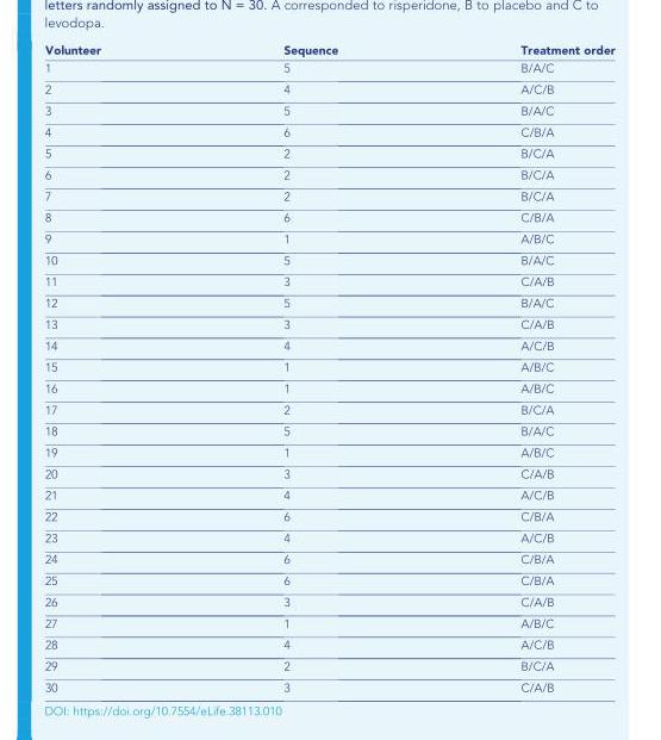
<table><thead><tr><td>Volunteer</td><td>Sequence</td><td>Treatment order</td></tr></thead><tbody><tr><td>1</td><td>5</td><td>B/A/C</td></tr><tr><td>2</td><td>4</td><td>A/C/B</td></tr><tr><td>3</td><td>5</td><td>B/A/C</td></tr><tr><td>4</td><td>6</td><td>C/B/A</td></tr><tr><td>5</td><td>2</td><td>B/C/A</td></tr><tr><td>6</td><td>2</td><td>B/C/A</td></tr><tr><td>7</td><td>2</td><td>B/C/A</td></tr><tr><td>8</td><td>6</td><td>C/B/A</td></tr><tr><td>9</td><td>1</td><td>A/B/C</td></tr><tr><td>10</td><td>5</td><td>B/A/C</td></tr><tr><td>11</td><td>3</td><td>C/A/B</td></tr><tr><td>12</td><td>5</td><td>B/A/C</td></tr><tr><td>13</td><td>3</td><td>C/A/B</td></tr><tr><td>14</td><td>4</td><td>A/C/B</td></tr><tr><td>15</td><td>1</td><td>A/B/C</td></tr><tr><td>16</td><td>1</td><td>A/B/C</td></tr><tr><td>17</td><td>2</td><td>B/C/A</td></tr><tr><td>18</td><td>5</td><td>B/A/C</td></tr><tr><td>19</td><td>1</td><td>A/B/C</td></tr><tr><td>20</td><td>3</td><td>C/A/B</td></tr><tr><td>21</td><td>4</td><td>A/C/B</td></tr><tr><td>22</td><td>6</td><td>C/B/A</td></tr><tr><td>23</td><td>4</td><td>A/C/B</td></tr><tr><td>24</td><td>6</td><td>C/B/A</td></tr><tr><td>25</td><td>6</td><td>C/B/A</td></tr><tr><td>26</td><td>3</td><td>C/A/B</td></tr><tr><td>27</td><td>1</td><td>A/B/C</td></tr><tr><td>28</td><td>4</td><td>A/C/B</td></tr><tr><td>29</td><td>2</td><td>B/C/A</td></tr><tr><td>30</td><td>3</td><td>C/A/B</td></tr></tbody></table>